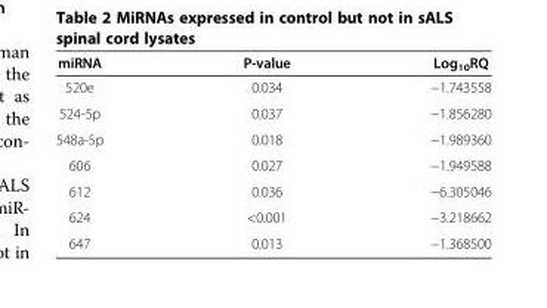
<table><thead><tr><td>miRNA</td><td>P-value</td><td>Log<sub>10</sub>RQ</td></tr></thead><tbody><tr><td>520e</td><td>0.034</td><td>−1.743558</td></tr><tr><td>524-5p</td><td>0.037</td><td>−1.856280</td></tr><tr><td>548a-5p</td><td>0.018</td><td>−1.989360</td></tr><tr><td>606</td><td>0.027</td><td>−1.949588</td></tr><tr><td>612</td><td>0.036</td><td>−6.305046</td></tr><tr><td>624</td><td>&lt;0.001</td><td>−3.218662</td></tr><tr><td>647</td><td>0.013</td><td>−1.368500</td></tr></tbody></table>